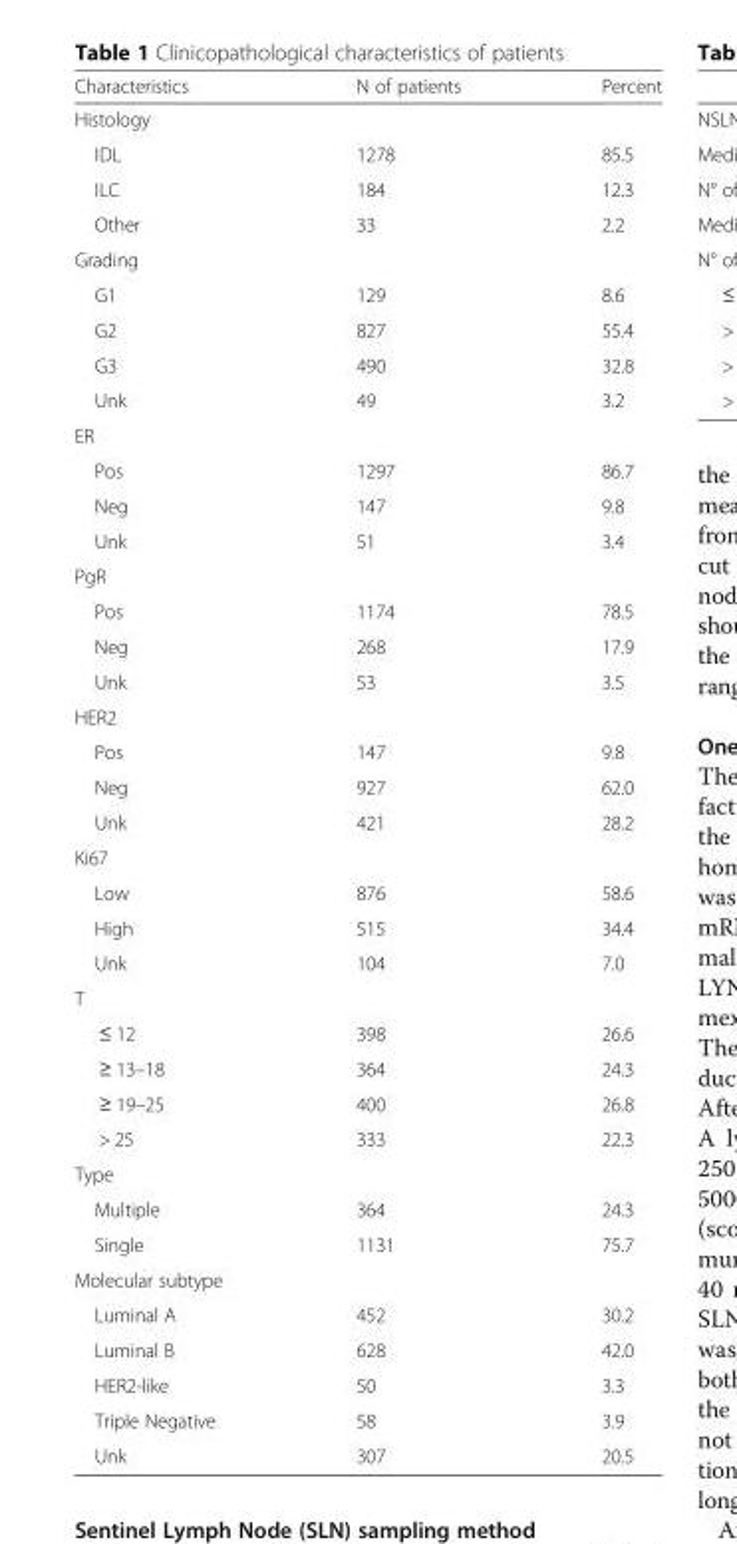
<table><thead><tr><td>Characteristics</td><td>N of patients</td><td>Percent</td></tr></thead><tbody><tr><td colspan="3">Histology</td></tr><tr><td>IDL</td><td>1278</td><td>85.5</td></tr><tr><td>ILC</td><td>184</td><td>12.3</td></tr><tr><td>Other</td><td>33</td><td>2.2</td></tr><tr><td colspan="3">Grading</td></tr><tr><td>G1</td><td>129</td><td>8.6</td></tr><tr><td>G2</td><td>827</td><td>55.4</td></tr><tr><td>G3</td><td>490</td><td>32.8</td></tr><tr><td>Unk</td><td>49</td><td>3.2</td></tr><tr><td colspan="3">ER</td></tr><tr><td>Pos</td><td>1297</td><td>86.7</td></tr><tr><td>Neg</td><td>147</td><td>9.8</td></tr><tr><td>Unk</td><td>51</td><td>3.4</td></tr><tr><td colspan="3">PgR</td></tr><tr><td>Pos</td><td>1174</td><td>78.5</td></tr><tr><td>Neg</td><td>268</td><td>17.9</td></tr><tr><td>Unk</td><td>53</td><td>3.5</td></tr><tr><td colspan="3">HER2</td></tr><tr><td>Pos</td><td>147</td><td>9.8</td></tr><tr><td>Neg</td><td>927</td><td>62.0</td></tr><tr><td>Unk</td><td>421</td><td>28.2</td></tr><tr><td colspan="3">Ki67</td></tr><tr><td>Low</td><td>876</td><td>58.6</td></tr><tr><td>High</td><td>515</td><td>34.4</td></tr><tr><td>Unk</td><td>104</td><td>7.0</td></tr><tr><td colspan="3">T</td></tr><tr><td>≤ 12</td><td>398</td><td>26.6</td></tr><tr><td>≥ 13–18</td><td>364</td><td>24.3</td></tr><tr><td>≥ 19–25</td><td>400</td><td>26.8</td></tr><tr><td>&gt; 25</td><td>333</td><td>22.3</td></tr><tr><td colspan="3">Type</td></tr><tr><td>Multiple</td><td>364</td><td>24.3</td></tr><tr><td>Single</td><td>1131</td><td>75.7</td></tr><tr><td colspan="3">Molecular subtype</td></tr><tr><td>Luminal A</td><td>452</td><td>30.2</td></tr><tr><td>Luminal B</td><td>628</td><td>42.0</td></tr><tr><td>HER2-like</td><td>50</td><td>3.3</td></tr><tr><td>Triple Negative</td><td>58</td><td>3.9</td></tr><tr><td>Unk</td><td>307</td><td>20.5</td></tr></tbody></table>